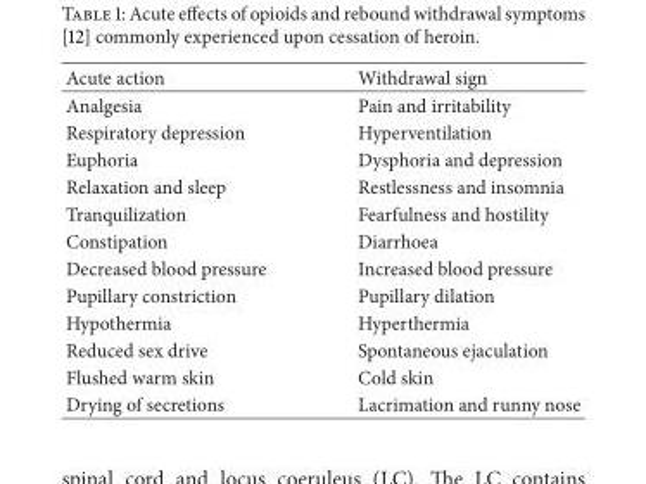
<table><thead><tr><td>Acute action</td><td>Withdrawal sign</td></tr></thead><tbody><tr><td>Analgesia</td><td>Pain and irritability</td></tr><tr><td>Respiratory depression</td><td>Hyperventilation</td></tr><tr><td>Euphoria</td><td>Dysphoria and depression</td></tr><tr><td>Relaxation and sleep</td><td>Restlessness and insomnia</td></tr><tr><td>Tranquilization</td><td>Fearfulness and hostility</td></tr><tr><td>Constipation</td><td>Diarrhoea</td></tr><tr><td>Decreased blood pressure</td><td>Increased blood pressure</td></tr><tr><td>Pupillary constriction</td><td>Pupillary dilation</td></tr><tr><td>Hypothermia</td><td>Hyperthermia</td></tr><tr><td>Reduced sex drive</td><td>Spontaneous ejaculation</td></tr><tr><td>Flushed warm skin</td><td>Cold skin</td></tr><tr><td>Drying of secretions</td><td>Lacrimation and runny nose</td></tr></tbody></table>